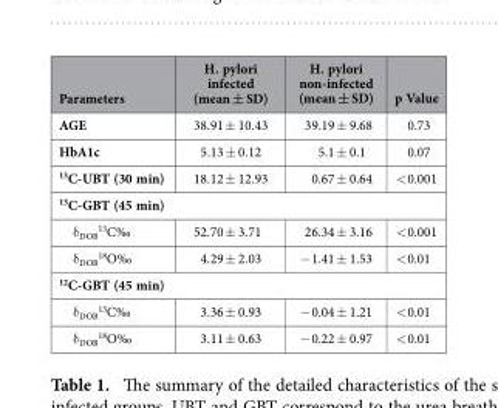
<table><thead><tr><td>Parameters</td><td>H. pylori infected (mean ± SD)</td><td>H. pylori non-infected (mean ± SD)</td><td>p Value</td></tr></thead><tbody><tr><td>AGE</td><td>38.91 ± 10.43</td><td>39.19 ± 9.68</td><td>0.73</td></tr><tr><td>HbA1c</td><td>5.13 ± 0.12</td><td>5.1 ± 0.1</td><td>0.07</td></tr><tr><td><sup>13</sup>C-UBT (30 min)</td><td>18.12 ± 12.93</td><td>0.67 ± 0.64</td><td>&lt; 0.001</td></tr><tr><td colspan="4"><sup>13</sup>C-GBT (45 min)</td></tr><tr><td>δ <sub>DOB</sub> <sup>13</sup>C‰</td><td>52.70 ± 3.71</td><td>26.34 ± 3.16</td><td>&lt; 0.001</td></tr><tr><td>δ <sub>DOB</sub> <sup>18</sup>O‰</td><td>4.29 ± 2.03</td><td>− 1.41 ± 1.53</td><td>&lt; 0.01</td></tr><tr><td colspan="4"><sup>12</sup>C-GBT (45 min)</td></tr><tr><td>δ <sub>DOB</sub> <sup>13</sup>C‰</td><td>3.36 ± 0.93</td><td>− 0.04 ± 1.21</td><td>&lt; 0.01</td></tr><tr><td>δ <sub>DOB</sub> <sup>18</sup>O‰</td><td>3.11 ± 0.63</td><td>− 0.22 ± 0.97</td><td>&lt; 0.01</td></tr></tbody></table>